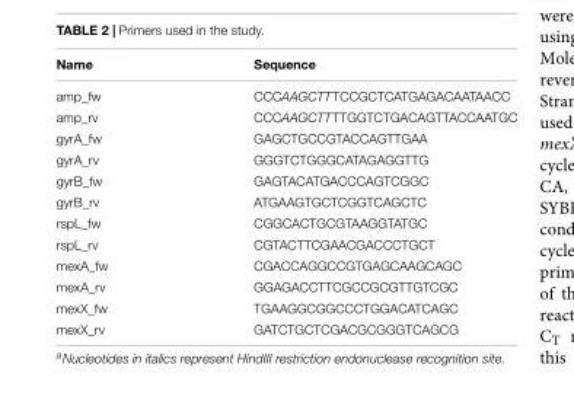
<table><thead><tr><td>Name</td><td>Sequence</td></tr></thead><tbody><tr><td>amp_fw</td><td>CCCAAGCTTTCCGCTCATGAGACAATAACC</td></tr><tr><td>amp_rv</td><td>CCCAAGCTTTTGGTCTGACAGTTACCAATGC</td></tr><tr><td>gyrA_fw</td><td>GAGCTGCCGTACCAGTTGAA</td></tr><tr><td>gyrA_rv</td><td>GGGTCTGGGCATAGAGGTTG</td></tr><tr><td>gyrB_fw</td><td>GAGTACATGACCCAGTCGGC</td></tr><tr><td>gyrB_rv</td><td>ATGAAGTGCTCGGTCAGCTC</td></tr><tr><td>rspL_fw</td><td>CGGCACTGCGTAAGGTATGC</td></tr><tr><td>rspL_rv</td><td>CGTACTTCGAACGACCCTGCT</td></tr><tr><td>mexA_fw</td><td>CGACCAGGCCGTGAGCAAGCAGC</td></tr><tr><td>mexA_rv</td><td>GGAGACCTTCGCCGCGTTGTCGC</td></tr><tr><td>mexX_fw</td><td>TGAAGGCGGCCCTGGACATCAGC</td></tr><tr><td>mexX_rv</td><td>GATCTGCTCGACGCGGGTCAGCG</td></tr></tbody></table>